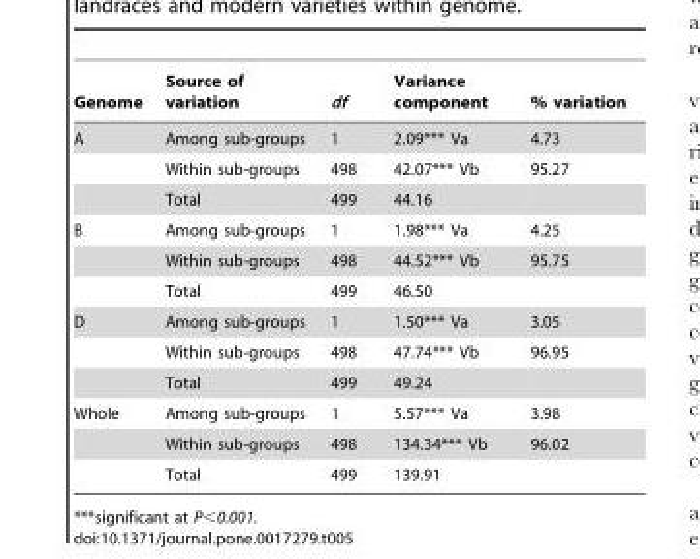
<table><thead><tr><td>Genome</td><td>Source of variation</td><td>df</td><td>Variance component</td><td>% variation</td></tr></thead><tbody><tr><td rowspan="3">A</td><td>Among sub-groups</td><td>1</td><td>2.09*** Va</td><td>4.73</td></tr><tr><td>Within sub-groups</td><td>498</td><td>42.07*** Vb</td><td>95.27</td></tr><tr><td>Total</td><td>499</td><td>44.16</td><td></td></tr><tr><td rowspan="3">B</td><td>Among sub-groups</td><td>1</td><td>1.98*** Va</td><td>4.25</td></tr><tr><td>Within sub-groups</td><td>498</td><td>44.52*** Vb</td><td>95.75</td></tr><tr><td>Total</td><td>499</td><td>46.50</td><td></td></tr><tr><td rowspan="3">D</td><td>Among sub-groups</td><td>1</td><td>1.50*** Va</td><td>3.05</td></tr><tr><td>Within sub-groups</td><td>498</td><td>47.74*** Vb</td><td>96.95</td></tr><tr><td>Total</td><td>499</td><td>49.24</td><td></td></tr><tr><td rowspan="3">Whole</td><td>Among sub-groups</td><td>1</td><td>5.57*** Va</td><td>3.98</td></tr><tr><td>Within sub-groups</td><td>498</td><td>134.34*** Vb</td><td>96.02</td></tr><tr><td>Total</td><td>499</td><td>139.91</td><td></td></tr></tbody></table>